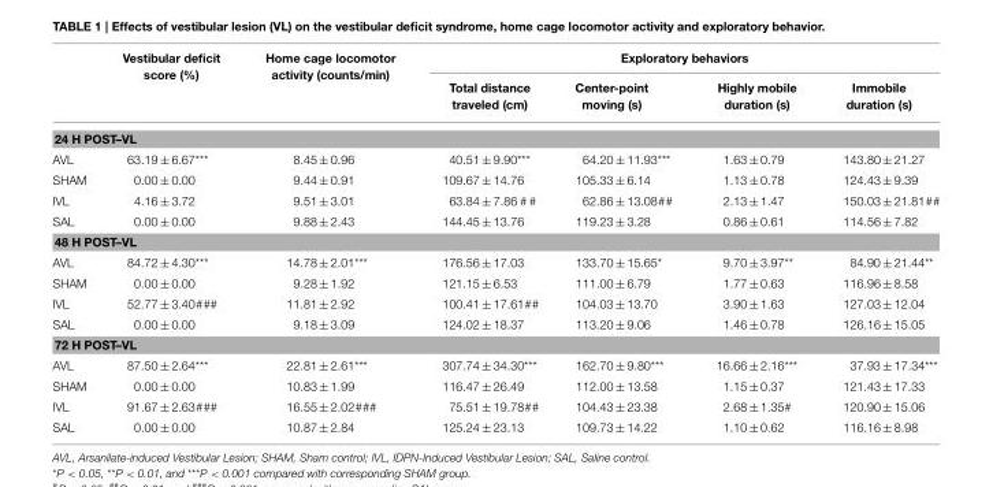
<table><thead><tr><td rowspan="2"></td><td rowspan="2">Vestibular deficit score (%)</td><td rowspan="2">Home cage locomotor activity (counts/min)</td><td colspan="4">Exploratory behaviors</td></tr><tr><td>Total distance traveled (cm)</td><td>Center-point moving (s)</td><td>Highly mobile duration (s)</td><td>Immobile duration (s)</td></tr></thead><tbody><tr><td colspan="7">24 H POST–VL</td></tr><tr><td>AVL</td><td>63.19 ± 6.67***</td><td>8.45 ± 0.96</td><td>40.51 ± 9.90***</td><td>64.20 ± 11.93***</td><td>1.63 ± 0.79</td><td>143.80 ± 21.27</td></tr><tr><td>SHAM</td><td>0.00 ± 0.00</td><td>9.44 ± 0.91</td><td>109.67 ± 14.76</td><td>105.33 ± 6.14</td><td>1.13 ± 0.78</td><td>124.43 ± 9.39</td></tr><tr><td>IVL</td><td>4.16 ± 3.72</td><td>9.51 ± 3.01</td><td>63.84 ± 7.86 # #</td><td>62.86 ± 13.08##</td><td>2.13 ± 1.47</td><td>150.03 ± 21.81##</td></tr><tr><td>SAL</td><td>0.00 ± 0.00</td><td>9.88 ± 2.43</td><td>144.45 ± 13.76</td><td>119.23 ± 3.28</td><td>0.86 ± 0.61</td><td>114.56 ± 7.82</td></tr><tr><td colspan="7">48 H POST–VL</td></tr><tr><td>AVL</td><td>84.72 ± 4.30***</td><td>14.78 ± 2.01***</td><td>176.56 ± 17.03</td><td>133.70 ± 15.65*</td><td>9.70 ± 3.97**</td><td>84.90 ± 21.44**</td></tr><tr><td>SHAM</td><td>0.00 ± 0.00</td><td>9.28 ± 1.92</td><td>121.15 ± 6.53</td><td>111.00 ± 6.79</td><td>1.77 ± 0.63</td><td>116.96 ± 8.58</td></tr><tr><td>IVL</td><td>52.77 ± 3.40###</td><td>11.81 ± 2.92</td><td>100.41 ± 17.61##</td><td>104.03 ± 13.70</td><td>3.90 ± 1.63</td><td>127.03 ± 12.04</td></tr><tr><td>SAL</td><td>0.00 ± 0.00</td><td>9.18 ± 3.09</td><td>124.02 ± 18.37</td><td>113.20 ± 9.06</td><td>1.46 ± 0.78</td><td>126.16 ± 15.05</td></tr><tr><td colspan="7">72 H POST–VL</td></tr><tr><td>AVL</td><td>87.50 ± 2.64***</td><td>22.81 ± 2.61***</td><td>307.74 ± 34.30***</td><td>162.70 ± 9.80***</td><td>16.66 ± 2.16***</td><td>37.93 ± 17.34***</td></tr><tr><td>SHAM</td><td>0.00 ± 0.00</td><td>10.83 ± 1.99</td><td>116.47 ± 26.49</td><td>112.00 ± 13.58</td><td>1.15 ± 0.37</td><td>121.43 ± 17.33</td></tr><tr><td>IVL</td><td>91.67 ± 2.63###</td><td>16.55 ± 2.02###</td><td>75.51 ± 19.78##</td><td>104.43 ± 23.38</td><td>2.68 ± 1.35#</td><td>120.90 ± 15.06</td></tr><tr><td>SAL</td><td>0.00 ± 0.00</td><td>10.87 ± 2.84</td><td>125.24 ± 23.13</td><td>109.73 ± 14.22</td><td>1.10 ± 0.62</td><td>116.16 ± 8.98</td></tr></tbody></table>